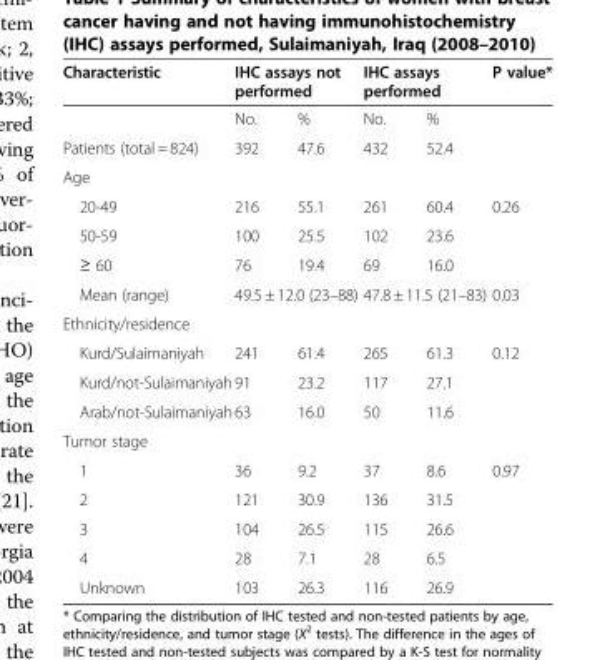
<table><thead><tr><td rowspan="2">Characteristic</td><td colspan="2">IHC assays not performed</td><td colspan="2">IHC assays performed</td><td rowspan="2">P value*</td></tr><tr><td>No.</td><td>%</td><td>No.</td><td>%</td></tr></thead><tbody><tr><td>Patients (total = 824)</td><td>392</td><td>47.6</td><td>432</td><td>52.4</td><td></td></tr><tr><td colspan="6">Age</td></tr><tr><td>20-49</td><td>216</td><td>55.1</td><td>261</td><td>60.4</td><td>0.26</td></tr><tr><td>50-59</td><td>100</td><td>25.5</td><td>102</td><td>23.6</td><td></td></tr><tr><td>≥ 60</td><td>76</td><td>19.4</td><td>69</td><td>16.0</td><td></td></tr><tr><td>Mean (range)</td><td colspan="2">49.5 ± 12.0 (23–88)</td><td colspan="2">47.8 ± 11.5 (21–83)</td><td>0.03</td></tr><tr><td colspan="6">Ethnicity/residence</td></tr><tr><td>Kurd/Sulaimaniyah</td><td>241</td><td>61.4</td><td>265</td><td>61.3</td><td>0.12</td></tr><tr><td>Kurd/not-Sulaimaniyah</td><td>91</td><td>23.2</td><td>117</td><td>27.1</td><td></td></tr><tr><td>Arab/not-Sulaimaniyah</td><td>63</td><td>16.0</td><td>50</td><td>11.6</td><td></td></tr><tr><td colspan="6">Tumor stage</td></tr><tr><td>1</td><td>36</td><td>9.2</td><td>37</td><td>8.6</td><td>0.97</td></tr><tr><td>2</td><td>121</td><td>30.9</td><td>136</td><td>31.5</td><td></td></tr><tr><td>3</td><td>104</td><td>26.5</td><td>115</td><td>26.6</td><td></td></tr><tr><td>4</td><td>28</td><td>7.1</td><td>28</td><td>6.5</td><td></td></tr><tr><td>Unknown</td><td>103</td><td>26.3</td><td>116</td><td>26.9</td><td></td></tr></tbody></table>